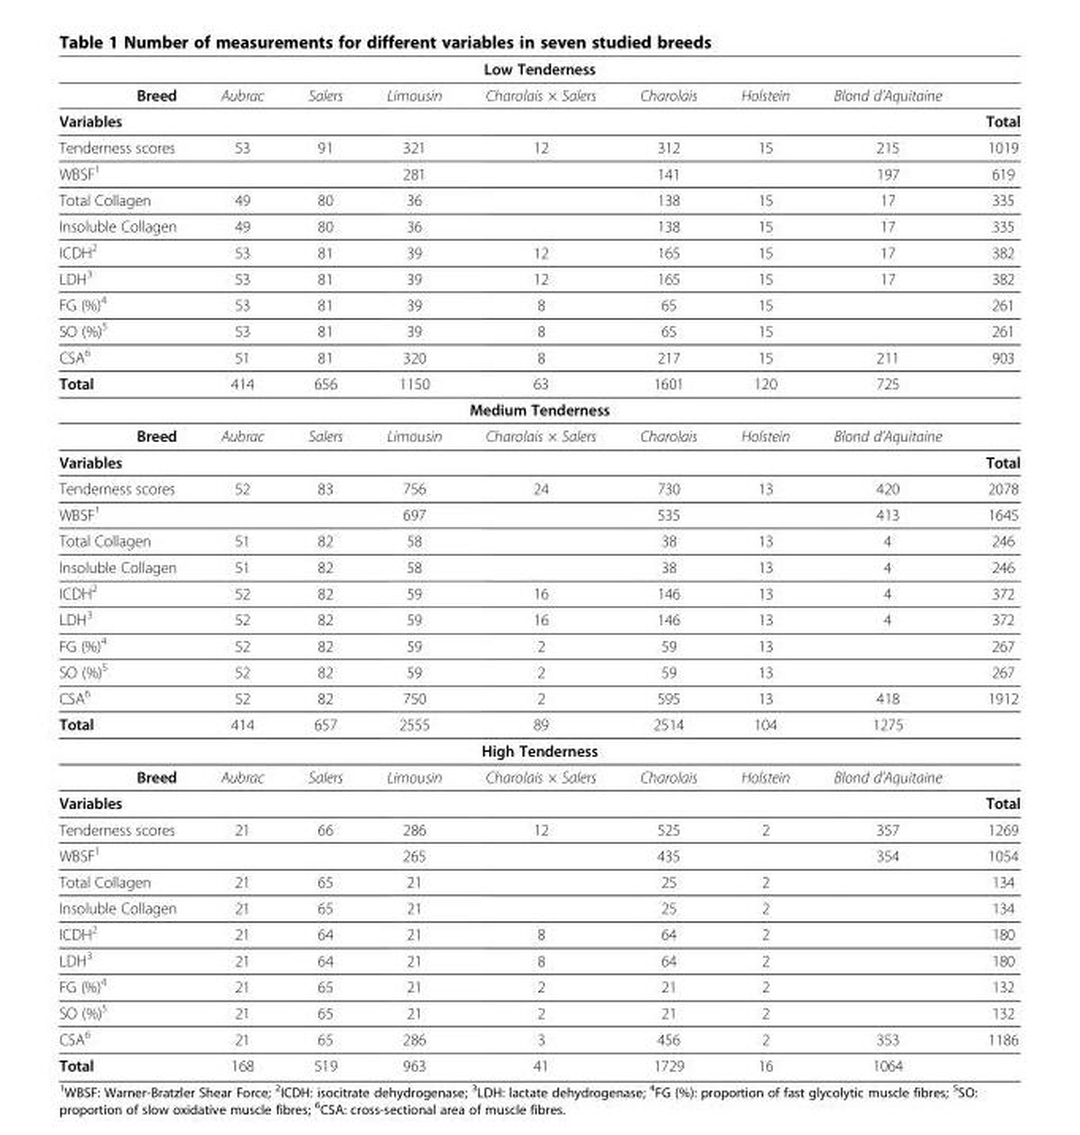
<table><tbody><tr><td colspan="9">Low Tenderness</td></tr><tr><td>Breed</td><td>Aubrac</td><td>Salers</td><td>Limousin</td><td>Charolais × Salers</td><td>Charolais</td><td>Holstein</td><td>Blond d&#x27;Aquitaine</td><td></td></tr><tr><td>Variables</td><td></td><td></td><td></td><td></td><td></td><td></td><td></td><td>Total</td></tr><tr><td>Tenderness scores</td><td>53</td><td>91</td><td>321</td><td>12</td><td>312</td><td>15</td><td>215</td><td>1019</td></tr><tr><td>WBSF<sup>1</sup></td><td></td><td></td><td>281</td><td></td><td>141</td><td></td><td>197</td><td>619</td></tr><tr><td>Total Collagen</td><td>49</td><td>80</td><td>36</td><td></td><td>138</td><td>15</td><td>17</td><td>335</td></tr><tr><td>Insoluble Collagen</td><td>49</td><td>80</td><td>36</td><td></td><td>138</td><td>15</td><td>17</td><td>335</td></tr><tr><td>ICDH<sup>2</sup></td><td>53</td><td>81</td><td>39</td><td>12</td><td>165</td><td>15</td><td>17</td><td>382</td></tr><tr><td>LDH<sup>3</sup></td><td>53</td><td>81</td><td>39</td><td>12</td><td>165</td><td>15</td><td>17</td><td>382</td></tr><tr><td>FG (%)<sup>4</sup></td><td>53</td><td>81</td><td>39</td><td>8</td><td>65</td><td>15</td><td></td><td>261</td></tr><tr><td>SO (%)<sup>5</sup></td><td>53</td><td>81</td><td>39</td><td>8</td><td>65</td><td>15</td><td></td><td>261</td></tr><tr><td>CSA<sup>6</sup></td><td>51</td><td>81</td><td>320</td><td>8</td><td>217</td><td>15</td><td>211</td><td>903</td></tr><tr><td>Total</td><td>414</td><td>656</td><td>1150</td><td>63</td><td>1601</td><td>120</td><td>725</td><td></td></tr><tr><td colspan="9">Medium Tenderness</td></tr><tr><td>Breed</td><td>Aubrac</td><td>Salers</td><td>Limousin</td><td>Charolais × Salers</td><td>Charolais</td><td>Holstein</td><td>Blond d&#x27;Aquitaine</td><td></td></tr><tr><td>Variables</td><td></td><td></td><td></td><td></td><td></td><td></td><td></td><td>Total</td></tr><tr><td>Tenderness scores</td><td>52</td><td>83</td><td>756</td><td>24</td><td>730</td><td>13</td><td>420</td><td>2078</td></tr><tr><td>WBSF<sup>1</sup></td><td></td><td></td><td>697</td><td></td><td>535</td><td></td><td>413</td><td>1645</td></tr><tr><td>Total Collagen</td><td>51</td><td>82</td><td>58</td><td></td><td>38</td><td>13</td><td>4</td><td>246</td></tr><tr><td>Insoluble Collagen</td><td>51</td><td>82</td><td>58</td><td></td><td>38</td><td>13</td><td>4</td><td>246</td></tr><tr><td>ICDH<sup>2</sup></td><td>52</td><td>82</td><td>59</td><td>16</td><td>146</td><td>13</td><td>4</td><td>372</td></tr><tr><td>LDH<sup>3</sup></td><td>52</td><td>82</td><td>59</td><td>16</td><td>146</td><td>13</td><td>4</td><td>372</td></tr><tr><td>FG (%)<sup>4</sup></td><td>52</td><td>82</td><td>59</td><td>2</td><td>59</td><td>13</td><td></td><td>267</td></tr><tr><td>SO (%)<sup>5</sup></td><td>52</td><td>82</td><td>59</td><td>2</td><td>59</td><td>13</td><td></td><td>267</td></tr><tr><td>CSA<sup>6</sup></td><td>52</td><td>82</td><td>750</td><td>2</td><td>595</td><td>13</td><td>418</td><td>1912</td></tr><tr><td>Total</td><td>414</td><td>657</td><td>2555</td><td>89</td><td>2514</td><td>104</td><td>1275</td><td></td></tr><tr><td colspan="9">High Tenderness</td></tr><tr><td>Breed</td><td>Aubrac</td><td>Salers</td><td>Limousin</td><td>Charolais × Salers</td><td>Charolais</td><td>Holstein</td><td>Blond d&#x27;Aquitaine</td><td></td></tr><tr><td>Variables</td><td></td><td></td><td></td><td></td><td></td><td></td><td></td><td>Total</td></tr><tr><td>Tenderness scores</td><td>21</td><td>66</td><td>286</td><td>12</td><td>525</td><td>2</td><td>357</td><td>1269</td></tr><tr><td>WBSF<sup>1</sup></td><td></td><td></td><td>265</td><td></td><td>435</td><td></td><td>354</td><td>1054</td></tr><tr><td>Total Collagen</td><td>21</td><td>65</td><td>21</td><td></td><td>25</td><td>2</td><td></td><td>134</td></tr><tr><td>Insoluble Collagen</td><td>21</td><td>65</td><td>21</td><td></td><td>25</td><td>2</td><td></td><td>134</td></tr><tr><td>ICDH<sup>2</sup></td><td>21</td><td>64</td><td>21</td><td>8</td><td>64</td><td>2</td><td></td><td>180</td></tr><tr><td>LDH<sup>3</sup></td><td>21</td><td>64</td><td>21</td><td>8</td><td>64</td><td>2</td><td></td><td>180</td></tr><tr><td>FG (%)<sup>4</sup></td><td>21</td><td>65</td><td>21</td><td>2</td><td>21</td><td>2</td><td></td><td>132</td></tr><tr><td>SO (%)<sup>5</sup></td><td>21</td><td>65</td><td>21</td><td>2</td><td>21</td><td>2</td><td></td><td>132</td></tr><tr><td>CSA<sup>6</sup></td><td>21</td><td>65</td><td>286</td><td>3</td><td>456</td><td>2</td><td>353</td><td>1186</td></tr><tr><td>Total</td><td>168</td><td>519</td><td>963</td><td>41</td><td>1729</td><td>16</td><td>1064</td><td></td></tr></tbody></table>